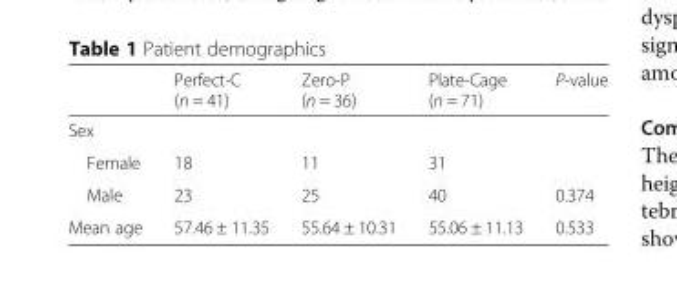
<table><thead><tr><td></td><td>Perfect-C (n = 41)</td><td>Zero-P (n = 36)</td><td>Plate-Cage (n = 71)</td><td>P-value</td></tr></thead><tbody><tr><td colspan="5">Sex</td></tr><tr><td>Female</td><td>18</td><td>11</td><td>31</td><td></td></tr><tr><td>Male</td><td>23</td><td>25</td><td>40</td><td>0.374</td></tr><tr><td>Mean age</td><td>57.46 ± 11.35</td><td>55.64 ± 10.31</td><td>55.06 ± 11.13</td><td>0.533</td></tr></tbody></table>